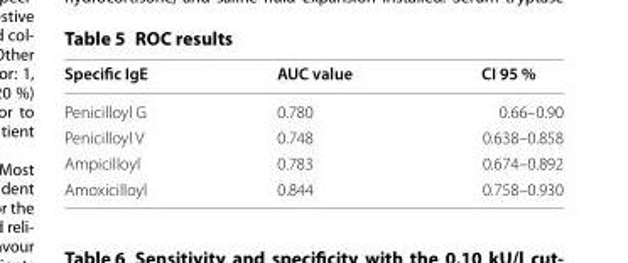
<table><thead><tr><td>Specific IgE</td><td>AUC value</td><td>CI 95 %</td></tr></thead><tbody><tr><td>Penicilloyl G</td><td>0.780</td><td>0.66–0.90</td></tr><tr><td>Penicilloyl V</td><td>0.748</td><td>0.638–0.858</td></tr><tr><td>Ampicilloyl</td><td>0.783</td><td>0.674–0.892</td></tr><tr><td>Amoxicilloyl</td><td>0.844</td><td>0.758–0.930</td></tr></tbody></table>